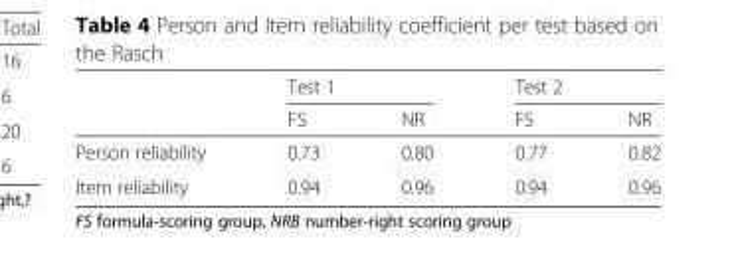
<table><thead><tr><td rowspan="2"></td><td colspan="2">Test 1</td><td colspan="2">Test 2</td></tr><tr><td>FS</td><td>NR</td><td>FS</td><td>NR</td></tr></thead><tbody><tr><td>Person reliability</td><td>0.73</td><td>0.80</td><td>0.77</td><td>0.82</td></tr><tr><td>Item reliability</td><td>0.94</td><td>0.96</td><td>0.94</td><td>0.96</td></tr></tbody></table>